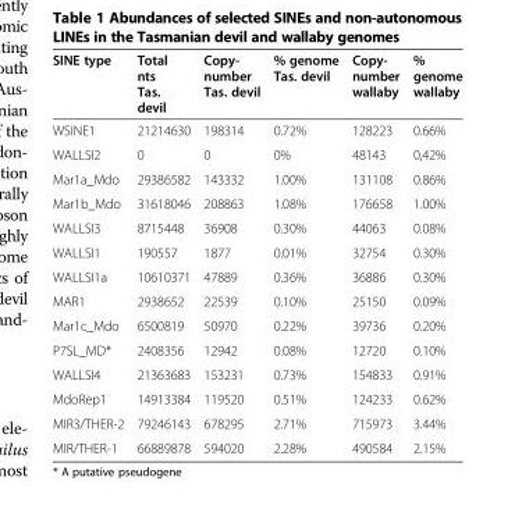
<table><thead><tr><td>SINE type</td><td>Total nts Tas. devil</td><td>Copy- number Tas. devil</td><td>% genome Tas. devil</td><td>Copy- number wallaby</td><td>% genome wallaby</td></tr></thead><tbody><tr><td>WSINE1</td><td>21214630</td><td>198314</td><td>0.72%</td><td>128223</td><td>0.66%</td></tr><tr><td>WALLSI2</td><td>0</td><td>0</td><td>0%</td><td>48143</td><td>0,42%</td></tr><tr><td>Mar1a_Mdo</td><td>29386582</td><td>143332</td><td>1.00%</td><td>131108</td><td>0.86%</td></tr><tr><td>Mar1b_Mdo</td><td>31618046</td><td>208863</td><td>1.08%</td><td>176658</td><td>1.00%</td></tr><tr><td>WALLSI3</td><td>8715448</td><td>36908</td><td>0.30%</td><td>44063</td><td>0.08%</td></tr><tr><td>WALLSI1</td><td>190557</td><td>1877</td><td>0.01%</td><td>32754</td><td>0.30%</td></tr><tr><td>WALLSI1a</td><td>10610371</td><td>47889</td><td>0.36%</td><td>36886</td><td>0.30%</td></tr><tr><td>MAR1</td><td>2938652</td><td>22539</td><td>0.10%</td><td>25150</td><td>0.09%</td></tr><tr><td>Mar1c_Mdo</td><td>6500819</td><td>50970</td><td>0.22%</td><td>39736</td><td>0.20%</td></tr><tr><td>P7SL_MD*</td><td>2408356</td><td>12942</td><td>0.08%</td><td>12720</td><td>0.10%</td></tr><tr><td>WALLSI4</td><td>21363683</td><td>153231</td><td>0.73%</td><td>154833</td><td>0.91%</td></tr><tr><td>MdoRep1</td><td>14913384</td><td>119520</td><td>0.51%</td><td>124233</td><td>0.62%</td></tr><tr><td>MIR3/THER-2</td><td>79246143</td><td>678295</td><td>2.71%</td><td>715973</td><td>3.44%</td></tr><tr><td>MIR/THER-1</td><td>66889878</td><td>594020</td><td>2.28%</td><td>490584</td><td>2.15%</td></tr></tbody></table>